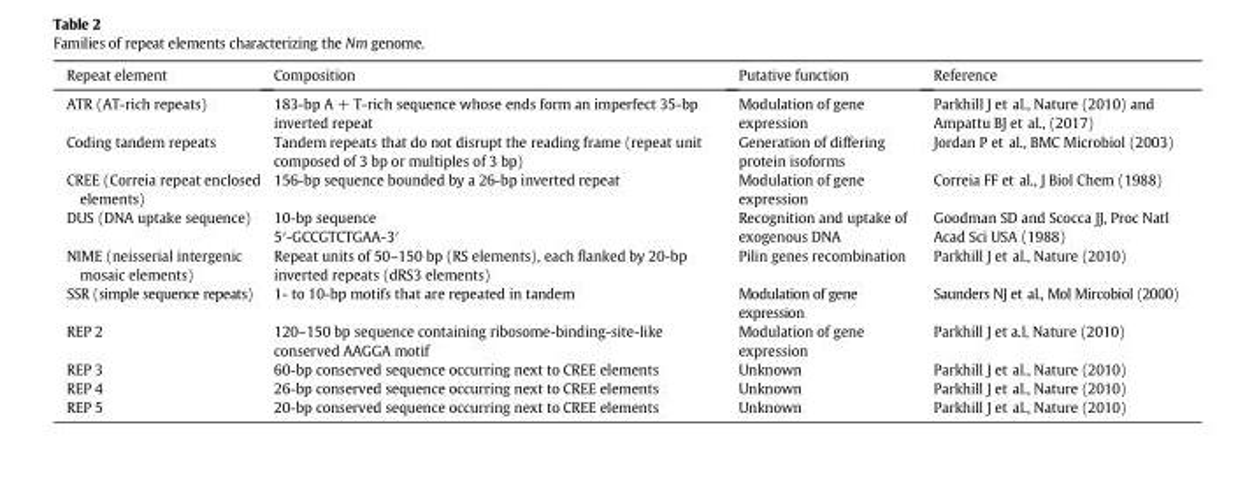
<table><thead><tr><td>Repeat element</td><td>Composition</td><td>Putative function</td><td>Reference</td></tr></thead><tbody><tr><td>ATR (AT-rich repeats)</td><td>183-bp A + T-rich sequence whose ends form an imperfect 35-bp inverted repeat</td><td>Modulation of gene expression</td><td>Parkhill J et al., Nature (2010) and Ampattu BJ et al., (2017)</td></tr><tr><td>Coding tandem repeats</td><td>Tandem repeats that do not disrupt the reading frame (repeat unit composed of 3 bp or multiples of 3 bp)</td><td>Generation of differing protein isoforms</td><td>Jordan P et al., BMC Microbiol (2003)</td></tr><tr><td>CREE (Correia repeat enclosed elements)</td><td>156-bp sequence bounded by a 26-bp inverted repeat</td><td>Modulation of gene expression</td><td>Correia FF et al., J Biol Chem (1988)</td></tr><tr><td>DUS (DNA uptake sequence)</td><td>10-bp sequence 5′-GCCGTCTGAA-3′</td><td>Recognition and uptake of exogenous DNA</td><td>Goodman SD and Scocca JJ, Proc Natl Acad Sci USA (1988)</td></tr><tr><td>NIME (neisserial intergenic mosaic elements)</td><td>Repeat units of 50–150 bp (RS elements), each flanked by 20-bp inverted repeats (dRS3 elements)</td><td>Pilin genes recombination</td><td>Parkhill J et al., Nature (2010)</td></tr><tr><td>SSR (simple sequence repeats)</td><td>1- to 10-bp motifs that are repeated in tandem</td><td>Modulation of gene expression</td><td>Saunders NJ et al., Mol Mircobiol (2000)</td></tr><tr><td>REP 2</td><td>120–150 bp sequence containing ribosome-binding-site-like conserved AAGGA motif</td><td>Modulation of gene expression</td><td>Parkhill J et a.l, Nature (2010)</td></tr><tr><td>REP 3</td><td>60-bp conserved sequence occurring next to CREE elements</td><td>Unknown</td><td>Parkhill J et al., Nature (2010)</td></tr><tr><td>REP 4</td><td>26-bp conserved sequence occurring next to CREE elements</td><td>Unknown</td><td>Parkhill J et al., Nature (2010)</td></tr><tr><td>REP 5</td><td>20-bp conserved sequence occurring next to CREE elements</td><td>Unknown</td><td>Parkhill J et al., Nature (2010)</td></tr></tbody></table>